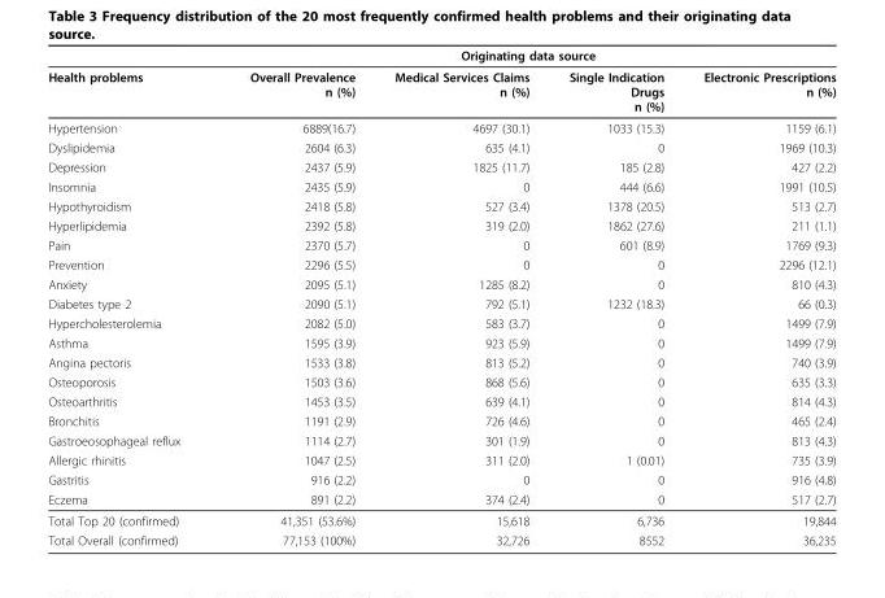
<table><thead><tr><td rowspan="2">Health problems</td><td colspan="4">Originating data source</td></tr><tr><td>Overall Prevalence n (%)</td><td>Medical Services Claims n (%)</td><td>Single Indication Drugs n (%)</td><td>Electronic Prescriptions n (%)</td></tr></thead><tbody><tr><td>Hypertension</td><td>6889(16.7)</td><td>4697 (30.1)</td><td>1033 (15.3)</td><td>1159 (6.1)</td></tr><tr><td>Dyslipidemia</td><td>2604 (6.3)</td><td>635 (4.1)</td><td>0</td><td>1969 (10.3)</td></tr><tr><td>Depression</td><td>2437 (5.9)</td><td>1825 (11.7)</td><td>185 (2.8)</td><td>427 (2.2)</td></tr><tr><td>Insomnia</td><td>2435 (5.9)</td><td>0</td><td>444 (6.6)</td><td>1991 (10.5)</td></tr><tr><td>Hypothyroidism</td><td>2418 (5.8)</td><td>527 (3.4)</td><td>1378 (20.5)</td><td>513 (2.7)</td></tr><tr><td>Hyperlipidemia</td><td>2392 (5.8)</td><td>319 (2.0)</td><td>1862 (27.6)</td><td>211 (1.1)</td></tr><tr><td>Pain</td><td>2370 (5.7)</td><td>0</td><td>601 (8.9)</td><td>1769 (9.3)</td></tr><tr><td>Prevention</td><td>2296 (5.5)</td><td>0</td><td>0</td><td>2296 (12.1)</td></tr><tr><td>Anxiety</td><td>2095 (5.1)</td><td>1285 (8.2)</td><td>0</td><td>810 (4.3)</td></tr><tr><td>Diabetes type 2</td><td>2090 (5.1)</td><td>792 (5.1)</td><td>1232 (18.3)</td><td>66 (0.3)</td></tr><tr><td>Hypercholesterolemia</td><td>2082 (5.0)</td><td>583 (3.7)</td><td>0</td><td>1499 (7.9)</td></tr><tr><td>Asthma</td><td>1595 (3.9)</td><td>923 (5.9)</td><td>0</td><td>1499 (7.9)</td></tr><tr><td>Angina pectoris</td><td>1533 (3.8)</td><td>813 (5.2)</td><td>0</td><td>740 (3.9)</td></tr><tr><td>Osteoporosis</td><td>1503 (3.6)</td><td>868 (5.6)</td><td>0</td><td>635 (3.3)</td></tr><tr><td>Osteoarthritis</td><td>1453 (3.5)</td><td>639 (4.1)</td><td>0</td><td>814 (4.3)</td></tr><tr><td>Bronchitis</td><td>1191 (2.9)</td><td>726 (4.6)</td><td>0</td><td>465 (2.4)</td></tr><tr><td>Gastroeosophageal reflux</td><td>1114 (2.7)</td><td>301 (1.9)</td><td>0</td><td>813 (4.3)</td></tr><tr><td>Allergic rhinitis</td><td>1047 (2.5)</td><td>311 (2.0)</td><td>1 (0.01)</td><td>735 (3.9)</td></tr><tr><td>Gastritis</td><td>916 (2.2)</td><td>0</td><td>0</td><td>916 (4.8)</td></tr><tr><td>Eczema</td><td>891 (2.2)</td><td>374 (2.4)</td><td>0</td><td>517 (2.7)</td></tr><tr><td>Total Top 20 (confirmed)</td><td>41,351 (53.6%)</td><td>15,618</td><td>6,736</td><td>19,844</td></tr><tr><td>Total Overall (confirmed)</td><td>77,153 (100%)</td><td>32,726</td><td>8552</td><td>36,235</td></tr></tbody></table>